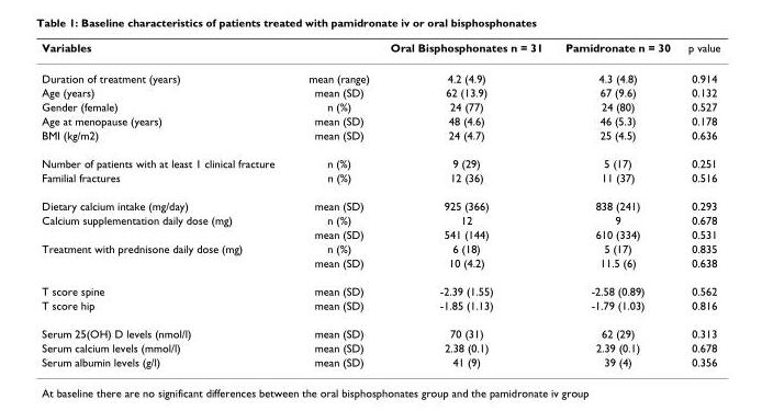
<table><thead><tr><td>Variables</td><td></td><td>Oral Bisphosphonates n = 31</td><td>Pamidronate n = 30</td><td>p value</td></tr></thead><tbody><tr><td>Duration of treatment (years)</td><td>mean (range)</td><td>4.2 (4.9)</td><td>4.3 (4.8)</td><td>0.914</td></tr><tr><td>Age (years)</td><td>mean (SD)</td><td>62 (13.9)</td><td>67 (9.6)</td><td>0.132</td></tr><tr><td>Gender (female)</td><td>n (%)</td><td>24 (77)</td><td>24 (80)</td><td>0.527</td></tr><tr><td>Age at menopause (years)</td><td>mean (SD)</td><td>48 (4.6)</td><td>46 (5.3)</td><td>0.178</td></tr><tr><td>BMI (kg/m2)</td><td>mean (SD)</td><td>24 (4.7)</td><td>25 (4.5)</td><td>0.636</td></tr><tr><td>Number of patients with at least 1 clinical fracture</td><td>n (%)</td><td>9 (29)</td><td>5 (17)</td><td>0.251</td></tr><tr><td>Familial fractures</td><td>n (%)</td><td>12 (36)</td><td>11 (37)</td><td>0.516</td></tr><tr><td>Dietary calcium intake (mg/day)</td><td>mean (SD)</td><td>925 (366)</td><td>838 (241)</td><td>0.293</td></tr><tr><td rowspan="2">Calcium supplementation daily dose (mg)</td><td>n (%)</td><td>12</td><td>9</td><td>0.678</td></tr><tr><td>mean (SD)</td><td>541 (144)</td><td>610 (334)</td><td>0.531</td></tr><tr><td rowspan="2">Treatment with prednisone daily dose (mg)</td><td>n (%)</td><td>6 (18)</td><td>5 (17)</td><td>0.835</td></tr><tr><td>mean (SD)</td><td>10 (4.2)</td><td>11.5 (6)</td><td>0.638</td></tr><tr><td>T score spine</td><td>mean (SD)</td><td>-2.39 (1.55)</td><td>-2.58 (0.89)</td><td>0.562</td></tr><tr><td>T score hip</td><td>mean (SD)</td><td>-1.85 (1.13)</td><td>-1.79 (1.03)</td><td>0.816</td></tr><tr><td>Serum 25(OH) D levels (nmol/l)</td><td>mean (SD)</td><td>70 (31)</td><td>62 (29)</td><td>0.313</td></tr><tr><td>Serum calcium levels (mmol/l)</td><td>mean (SD)</td><td>2.38 (0.1)</td><td>2.39 (0.1)</td><td>0.678</td></tr><tr><td>Serum albumin levels (g/l)</td><td>mean (SD)</td><td>41 (9)</td><td>39 (4)</td><td>0.356</td></tr></tbody></table>